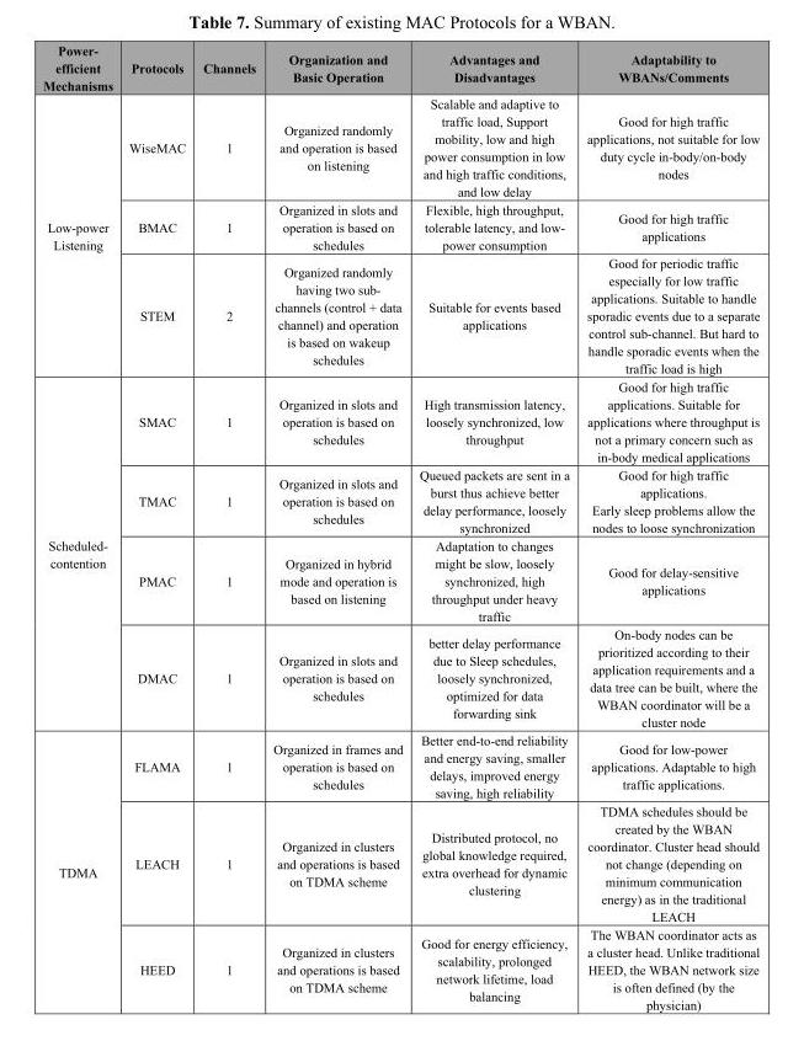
<table><thead><tr><td>Power- efficient Mechanisms</td><td>Protocols</td><td>Channels</td><td>Organization and Basic Operation</td><td>Advantages and Disadvantages</td><td>Adaptability to WBANs/Comments</td></tr></thead><tbody><tr><td rowspan="3">Low-power Listening</td><td>WiseMAC</td><td>1</td><td>Organized randomly and operation is based on listening</td><td>Scalable and adaptive to traffic load, Support mobility, low and high power consumption in low and high traffic conditions, and low delay</td><td>Good for high traffic applications, not suitable for low duty cycle in-body/on-body nodes</td></tr><tr><td>BMAC</td><td>1</td><td>Organized in slots and operation is based on schedules</td><td>Flexible, high throughput, tolerable latency, and low- power consumption</td><td>Good for high traffic applications</td></tr><tr><td>STEM</td><td>2</td><td>Organized randomly having two sub- channels (control + data channel) and operation is based on wakeup schedules</td><td>Suitable for events based applications</td><td>Good for periodic traffic especially for low traffic applications. Suitable to handle sporadic events due to a separate control sub-channel. But hard to handle sporadic events when the traffic load is high</td></tr><tr><td rowspan="4">Scheduled- contention</td><td>SMAC</td><td>1</td><td>Organized in slots and operation is based on schedules</td><td>High transmission latency, loosely synchronized, low throughput</td><td>Good for high traffic applications. Suitable for applications where throughput is not a primary concern such as in-body medical applications</td></tr><tr><td>TMAC</td><td>1</td><td>Organized in slots and operation is based on schedules</td><td>Queued packets are sent in a burst thus achieve better delay performance, loosely synchronized</td><td>Good for high traffic applications. Early sleep problems allow the nodes to loose synchronization</td></tr><tr><td>PMAC</td><td>1</td><td>Organized in hybrid mode and operation is based on listening</td><td>Adaptation to changes might be slow, loosely synchronized, high throughput under heavy traffic</td><td>Good for delay-sensitive applications</td></tr><tr><td>DMAC</td><td>1</td><td>Organized in slots and operation is based on schedules</td><td>better delay performance due to Sleep schedules, loosely synchronized, optimized for data forwarding sink</td><td>On-body nodes can be prioritized according to their application requirements and a data tree can be built, where the WBAN coordinator will be a cluster node</td></tr><tr><td rowspan="3">TDMA</td><td>FLAMA</td><td>1</td><td>Organized in frames and operation is based on schedules</td><td>Better end-to-end reliability and energy saving, smaller delays, improved energy saving, high reliability</td><td>Good for low-power applications. Adaptable to high traffic applications.</td></tr><tr><td>LEACH</td><td>1</td><td>Organized in clusters and operations is based on TDMA scheme</td><td>Distributed protocol, no global knowledge required, extra overhead for dynamic clustering</td><td>TDMA schedules should be created by the WBAN coordinator. Cluster head should not change (depending on minimum communication energy) as in the traditional LEACH</td></tr><tr><td>HEED</td><td>1</td><td>Organized in clusters and operations is based on TDMA scheme</td><td>Good for energy efficiency, scalability, prolonged network lifetime, load balancing</td><td>The WBAN coordinator acts as a cluster head. Unlike traditional HEED, the WBAN network size is often defined (by the physician)</td></tr></tbody></table>